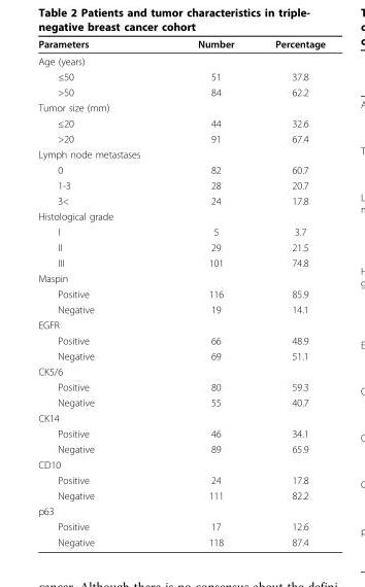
<table><thead><tr><td>Parameters</td><td>Number</td><td>Percentage</td></tr></thead><tbody><tr><td colspan="3">Age (years)</td></tr><tr><td>≤50</td><td>51</td><td>37.8</td></tr><tr><td>&gt;50</td><td>84</td><td>62.2</td></tr><tr><td colspan="3">Tumor size (mm)</td></tr><tr><td>≤20</td><td>44</td><td>32.6</td></tr><tr><td>&gt;20</td><td>91</td><td>67.4</td></tr><tr><td colspan="3">Lymph node metastases</td></tr><tr><td>0</td><td>82</td><td>60.7</td></tr><tr><td>1-3</td><td>28</td><td>20.7</td></tr><tr><td>3&lt;</td><td>24</td><td>17.8</td></tr><tr><td colspan="3">Histological grade</td></tr><tr><td>I</td><td>5</td><td>3.7</td></tr><tr><td>II</td><td>29</td><td>21.5</td></tr><tr><td>III</td><td>101</td><td>74.8</td></tr><tr><td colspan="3">Maspin</td></tr><tr><td>Positive</td><td>116</td><td>85.9</td></tr><tr><td>Negative</td><td>19</td><td>14.1</td></tr><tr><td colspan="3">EGFR</td></tr><tr><td>Positive</td><td>66</td><td>48.9</td></tr><tr><td>Negative</td><td>69</td><td>51.1</td></tr><tr><td colspan="3">CK5/6</td></tr><tr><td>Positive</td><td>80</td><td>59.3</td></tr><tr><td>Negative</td><td>55</td><td>40.7</td></tr><tr><td colspan="3">CK14</td></tr><tr><td>Positive</td><td>46</td><td>34.1</td></tr><tr><td>Negative</td><td>89</td><td>65.9</td></tr><tr><td colspan="3">CD10</td></tr><tr><td>Positive</td><td>24</td><td>17.8</td></tr><tr><td>Negative</td><td>111</td><td>82.2</td></tr><tr><td colspan="3">p63</td></tr><tr><td>Positive</td><td>17</td><td>12.6</td></tr><tr><td>Negative</td><td>118</td><td>87.4</td></tr></tbody></table>